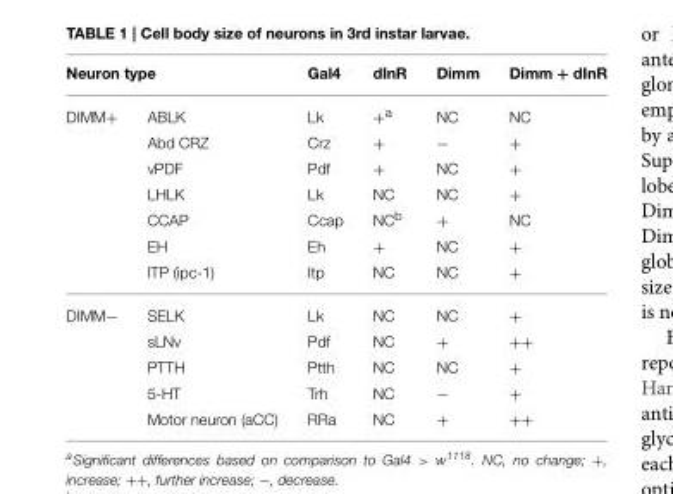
<table><thead><tr><td colspan="2">Neuron type</td><td rowspan="2">Gal4 Lk</td><td rowspan="2">dInR +<sup>a</sup></td><td rowspan="2">Dimm NC</td><td rowspan="2">Dimm + dInR NC</td></tr><tr><td>DIMM+</td><td>ABLK</td></tr></thead><tbody><tr><td></td><td>Abd CRZ</td><td>Crz</td><td>+</td><td>−</td><td>+</td></tr><tr><td></td><td>vPDF</td><td>Pdf</td><td>+</td><td>NC</td><td>+</td></tr><tr><td></td><td>LHLK</td><td>Lk</td><td>NC</td><td>NC</td><td>+</td></tr><tr><td></td><td>CCAP</td><td>Ccap</td><td>NC<sup>b</sup></td><td>+</td><td>NC</td></tr><tr><td></td><td>EH</td><td>Eh</td><td>+</td><td>NC</td><td>+</td></tr><tr><td></td><td>ITP (ipc-1)</td><td>Itp</td><td>NC</td><td>NC</td><td>+</td></tr><tr><td rowspan="5">DIMM−</td><td>SELK</td><td>Lk</td><td>NC</td><td>NC</td><td>+</td></tr><tr><td>sLNv</td><td>Pdf</td><td>NC</td><td>+</td><td>++</td></tr><tr><td>PTTH</td><td>Ptth</td><td>NC</td><td>NC</td><td>+</td></tr><tr><td>5-HT</td><td>Trh</td><td>NC</td><td>−</td><td>+</td></tr><tr><td>Motor neuron (aCC)</td><td>RRa</td><td>NC</td><td>+</td><td>++</td></tr></tbody></table>